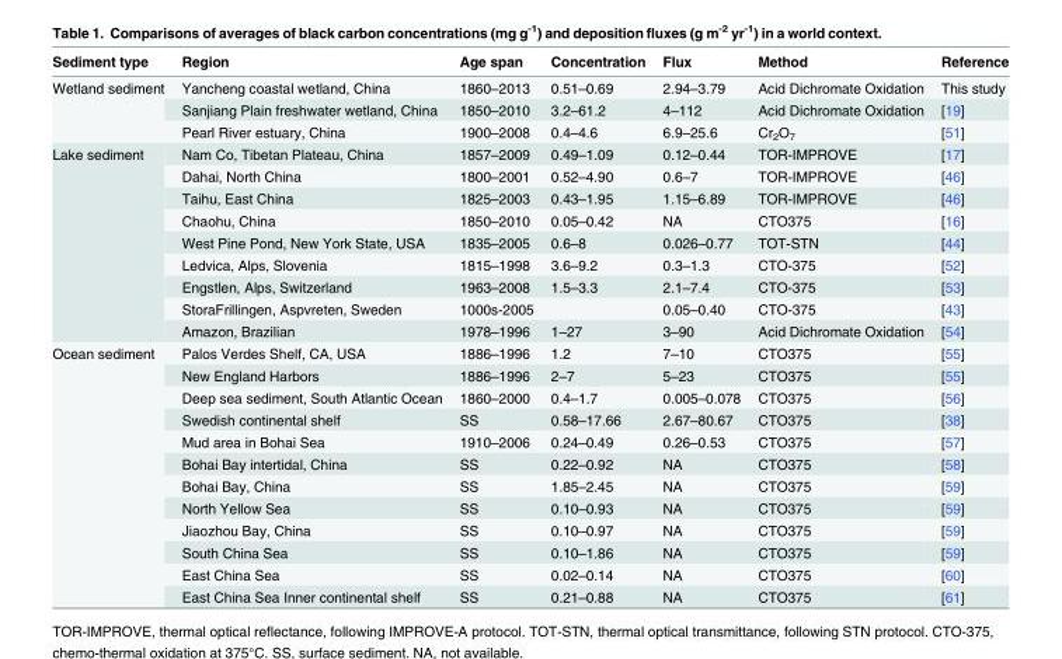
<table><thead><tr><td>Sediment type</td><td>Region</td><td>Age span</td><td>Concentration</td><td>Flux</td><td>Method</td><td>Reference</td></tr></thead><tbody><tr><td rowspan="3">Wetland sediment</td><td>Yancheng coastal wetland, China</td><td>1860–2013</td><td>0.51–0.69</td><td>2.94–3.79</td><td>Acid Dichromate Oxidation</td><td>This study</td></tr><tr><td>Sanjiang Plain freshwater wetland, China</td><td>1850–2010</td><td>3.2–61.2</td><td>4–112</td><td>Acid Dichromate Oxidation</td><td>[19]</td></tr><tr><td>Pearl River estuary, China</td><td>1900–2008</td><td>0.4–4.6</td><td>6.9–25.6</td><td>Cr<sub>2</sub>O<sub>7</sub></td><td>[51]</td></tr><tr><td rowspan="9">Lake sediment</td><td>Nam Co, Tibetan Plateau, China</td><td>1857–2009</td><td>0.49–1.09</td><td>0.12–0.44</td><td>TOR-IMPROVE</td><td>[17]</td></tr><tr><td>Dahai, North China</td><td>1800–2001</td><td>0.52–4.90</td><td>0.6–7</td><td>TOR-IMPROVE</td><td>[46]</td></tr><tr><td>Taihu, East China</td><td>1825–2003</td><td>0.43–1.95</td><td>1.15–6.89</td><td>TOR-IMPROVE</td><td>[46]</td></tr><tr><td>Chaohu, China</td><td>1850–2010</td><td>0.05–0.42</td><td>NA</td><td>CTO375</td><td>[16]</td></tr><tr><td>West Pine Pond, New York State, USA</td><td>1835–2005</td><td>0.6–8</td><td>0.026–0.77</td><td>TOT-STN</td><td>[44]</td></tr><tr><td>Ledvica, Alps, Slovenia</td><td>1815–1998</td><td>3.6–9.2</td><td>0.3–1.3</td><td>CTO-375</td><td>[52]</td></tr><tr><td>Engstlen, Alps, Switzerland</td><td>1963–2008</td><td>1.5–3.3</td><td>2.1–7.4</td><td>CTO-375</td><td>[53]</td></tr><tr><td>StoraFrillingen, Aspvreten, Sweden</td><td>1000s-2005</td><td></td><td>0.05–0.40</td><td>CTO-375</td><td>[43]</td></tr><tr><td>Amazon, Brazilian</td><td>1978–1996</td><td>1–27</td><td>3–90</td><td>Acid Dichromate Oxidation</td><td>[54]</td></tr><tr><td rowspan="12">Ocean sediment</td><td>Palos Verdes Shelf, CA, USA</td><td>1886–1996</td><td>1.2</td><td>7–10</td><td>CTO375</td><td>[55]</td></tr><tr><td>New England Harbors</td><td>1886–1996</td><td>2–7</td><td>5–23</td><td>CTO375</td><td>[55]</td></tr><tr><td>Deep sea sediment, South Atlantic Ocean</td><td>1860–2000</td><td>0.4–1.7</td><td>0.005–0.078</td><td>CTO375</td><td>[56]</td></tr><tr><td>Swedish continental shelf</td><td>SS</td><td>0.58–17.66</td><td>2.67–80.67</td><td>CTO375</td><td>[38]</td></tr><tr><td>Mud area in Bohai Sea</td><td>1910–2006</td><td>0.24–0.49</td><td>0.26–0.53</td><td>CTO375</td><td>[57]</td></tr><tr><td>Bohai Bay intertidal, China</td><td>SS</td><td>0.22–0.92</td><td>NA</td><td>CTO375</td><td>[58]</td></tr><tr><td>Bohai Bay, China</td><td>SS</td><td>1.85–2.45</td><td>NA</td><td>CTO375</td><td>[59]</td></tr><tr><td>North Yellow Sea</td><td>SS</td><td>0.10–0.93</td><td>NA</td><td>CTO375</td><td>[59]</td></tr><tr><td>Jiaozhou Bay, China</td><td>SS</td><td>0.10–0.97</td><td>NA</td><td>CTO375</td><td>[59]</td></tr><tr><td>South China Sea</td><td>SS</td><td>0.10–1.86</td><td>NA</td><td>CTO375</td><td>[59]</td></tr><tr><td>East China Sea</td><td>SS</td><td>0.02–0.14</td><td>NA</td><td>CTO375</td><td>[60]</td></tr><tr><td>East China Sea Inner continental shelf</td><td>SS</td><td>0.21–0.88</td><td>NA</td><td>CTO375</td><td>[61]</td></tr></tbody></table>